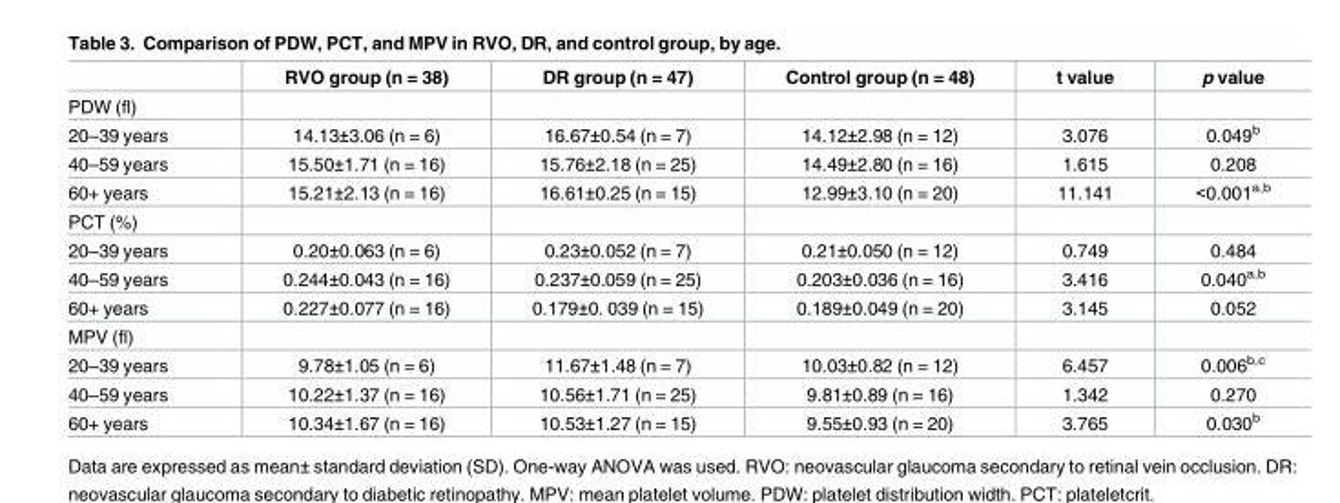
<table><thead><tr><td></td><td>RVO group (n = 38)</td><td>DR group (n = 47)</td><td>Control group (n = 48)</td><td>t value</td><td>p value</td></tr></thead><tbody><tr><td colspan="6">PDW (fl)</td></tr><tr><td>20–39 years</td><td>14.13±3.06 (n = 6)</td><td>16.67±0.54 (n = 7)</td><td>14.12±2.98 (n = 12)</td><td>3.076</td><td>0.049<sup>b</sup></td></tr><tr><td>40–59 years</td><td>15.50±1.71 (n = 16)</td><td>15.76±2.18 (n = 25)</td><td>14.49±2.80 (n = 16)</td><td>1.615</td><td>0.208</td></tr><tr><td>60+ years</td><td>15.21±2.13 (n = 16)</td><td>16.61±0.25 (n = 15)</td><td>12.99±3.10 (n = 20)</td><td>11.141</td><td>&lt;0.001<sup>a,b</sup></td></tr><tr><td colspan="6">PCT (%)</td></tr><tr><td>20–39 years</td><td>0.20±0.063 (n = 6)</td><td>0.23±0.052 (n = 7)</td><td>0.21±0.050 (n = 12)</td><td>0.749</td><td>0.484</td></tr><tr><td>40–59 years</td><td>0.244±0.043 (n = 16)</td><td>0.237±0.059 (n = 25)</td><td>0.203±0.036 (n = 16)</td><td>3.416</td><td>0.040<sup>a,b</sup></td></tr><tr><td>60+ years</td><td>0.227±0.077 (n = 16)</td><td>0.179±0. 039 (n = 15)</td><td>0.189±0.049 (n = 20)</td><td>3.145</td><td>0.052</td></tr><tr><td colspan="6">MPV (fl)</td></tr><tr><td>20–39 years</td><td>9.78±1.05 (n = 6)</td><td>11.67±1.48 (n = 7)</td><td>10.03±0.82 (n = 12)</td><td>6.457</td><td>0.006<sup>b,c</sup></td></tr><tr><td>40–59 years</td><td>10.22±1.37 (n = 16)</td><td>10.56±1.71 (n = 25)</td><td>9.81±0.89 (n = 16)</td><td>1.342</td><td>0.270</td></tr><tr><td>60+ years</td><td>10.34±1.67 (n = 16)</td><td>10.53±1.27 (n = 15)</td><td>9.55±0.93 (n = 20)</td><td>3.765</td><td>0.030<sup>b</sup></td></tr></tbody></table>